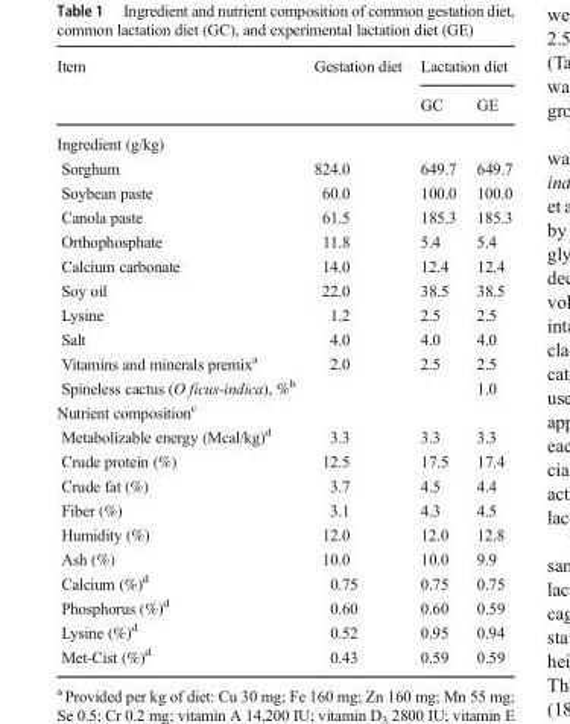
<table><thead><tr><td rowspan="2">Item</td><td rowspan="2">Gestation diet</td><td colspan="2">Lactation diet</td></tr><tr><td>GC</td><td>GE</td></tr></thead><tbody><tr><td colspan="4">Ingredient (g/kg)</td></tr><tr><td>Sorghum</td><td>824.0</td><td>649.7</td><td>649.7</td></tr><tr><td>Soybean paste</td><td>60.0</td><td>100.0</td><td>100.0</td></tr><tr><td>Canola paste</td><td>61.5</td><td>185.3</td><td>185.3</td></tr><tr><td>Orthophosphate</td><td>11.8</td><td>5.4</td><td>5.4</td></tr><tr><td>Calcium carbonate</td><td>14.0</td><td>12.4</td><td>12.4</td></tr><tr><td>Soy oil</td><td>22.0</td><td>38.5</td><td>38.5</td></tr><tr><td>Lysine</td><td>1.2</td><td>2.5</td><td>2.5</td></tr><tr><td>Salt</td><td>4.0</td><td>4.0</td><td>4.0</td></tr><tr><td>Vitamins and minerals premix<sup>a</sup></td><td>2.0</td><td>2.5</td><td>2.5</td></tr><tr><td>Spineless cactus (O ficus-indica), %<sup>b</sup></td><td></td><td></td><td>1.0</td></tr><tr><td colspan="4">Nutrient composition<sup>c</sup></td></tr><tr><td>Metabolizable energy (Mcal/kg)<sup>d</sup></td><td>3.3</td><td>3.3</td><td>3.3</td></tr><tr><td>Crude protein (%)</td><td>12.5</td><td>17.5</td><td>17.4</td></tr><tr><td>Crude fat (%)</td><td>3.7</td><td>4.5</td><td>4.4</td></tr><tr><td>Fiber (%)</td><td>3.1</td><td>4.3</td><td>4.5</td></tr><tr><td>Humidity (%)</td><td>12.0</td><td>12.0</td><td>12.8</td></tr><tr><td>Ash (%)</td><td>10.0</td><td>10.0</td><td>9.9</td></tr><tr><td>Calcium (%)<sup>d</sup></td><td>0.75</td><td>0.75</td><td>0.75</td></tr><tr><td>Phosphorus (%)<sup>d</sup></td><td>0.60</td><td>0.60</td><td>0.59</td></tr><tr><td>Lysine (%)<sup>d</sup></td><td>0.52</td><td>0.95</td><td>0.94</td></tr><tr><td>Met-Cist (%)<sup>d</sup></td><td>0.43</td><td>0.59</td><td>0.59</td></tr></tbody></table>